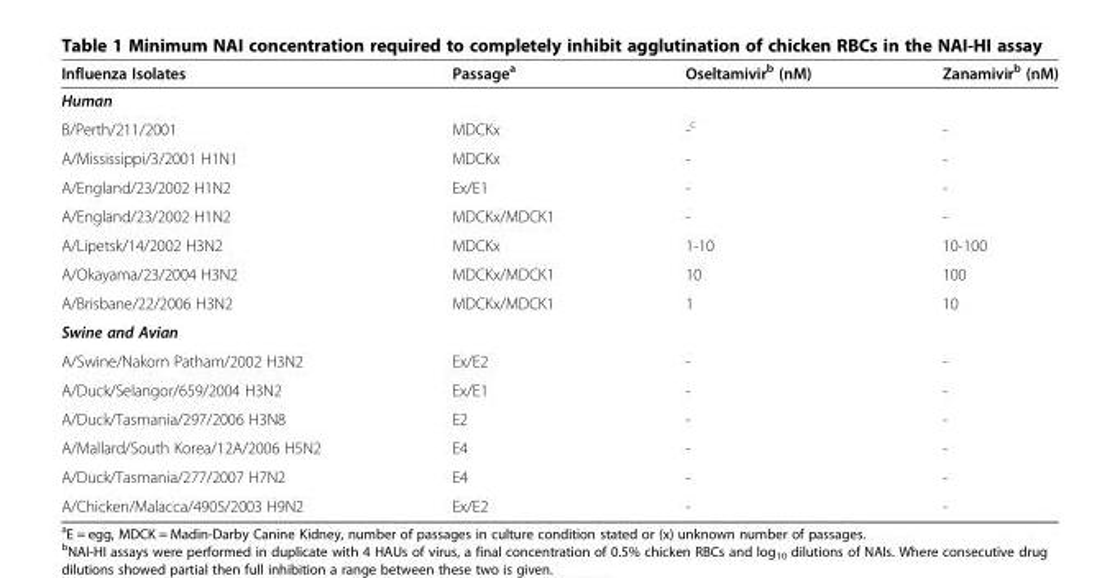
<table><thead><tr><td>Influenza Isolates</td><td>Passage<sup>a</sup></td><td>Oseltamivir<sup>b</sup> (nM)</td><td>Zanamivir<sup>b</sup> (nM)</td></tr></thead><tbody><tr><td colspan="4">Human</td></tr><tr><td>B/Perth/211/2001</td><td>MDCKx</td><td>-<sup>c</sup></td><td>-</td></tr><tr><td>A/Mississippi/3/2001 H1N1</td><td>MDCKx</td><td>-</td><td>-</td></tr><tr><td>A/England/23/2002 H1N2</td><td>Ex/E1</td><td>-</td><td>-</td></tr><tr><td>A/England/23/2002 H1N2</td><td>MDCKx/MDCK1</td><td>-</td><td>-</td></tr><tr><td>A/Lipetsk/14/2002 H3N2</td><td>MDCKx</td><td>1-10</td><td>10-100</td></tr><tr><td>A/Okayama/23/2004 H3N2</td><td>MDCKx/MDCK1</td><td>10</td><td>100</td></tr><tr><td>A/Brisbane/22/2006 H3N2</td><td>MDCKx/MDCK1</td><td>1</td><td>10</td></tr><tr><td colspan="4">Swine and Avian</td></tr><tr><td>A/Swine/Nakorn Patham/2002 H3N2</td><td>Ex/E2</td><td>-</td><td>-</td></tr><tr><td>A/Duck/Selangor/659/2004 H3N2</td><td>Ex/E1</td><td>-</td><td>-</td></tr><tr><td>A/Duck/Tasmania/297/2006 H3N8</td><td>E2</td><td>-</td><td>-</td></tr><tr><td>A/Mallard/South Korea/12A/2006 H5N2</td><td>E4</td><td>-</td><td>-</td></tr><tr><td>A/Duck/Tasmania/277/2007 H7N2</td><td>E4</td><td>-</td><td>-</td></tr><tr><td>A/Chicken/Malacca/4905/2003 H9N2</td><td>Ex/E2</td><td>-</td><td>-</td></tr></tbody></table>